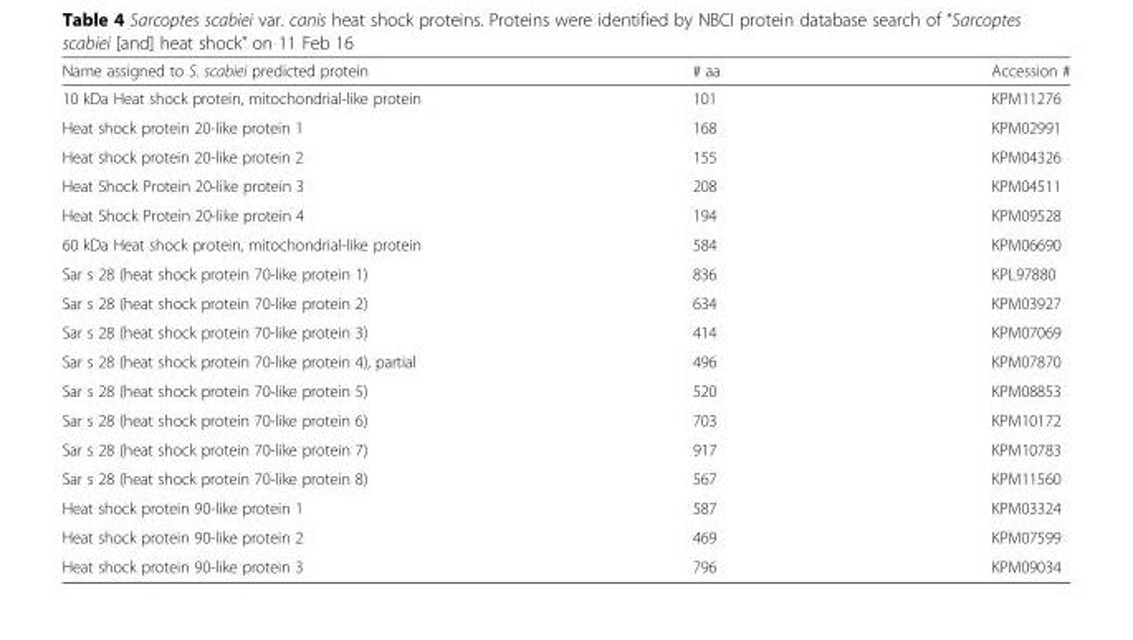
<table><thead><tr><td>Name assigned to S. scabiei predicted protein</td><td># aa</td><td>Accession #</td></tr></thead><tbody><tr><td>10 kDa Heat shock protein, mitochondrial-like protein</td><td>101</td><td>KPM11276</td></tr><tr><td>Heat shock protein 20-like protein 1</td><td>168</td><td>KPM02991</td></tr><tr><td>Heat shock protein 20-like protein 2</td><td>155</td><td>KPM04326</td></tr><tr><td>Heat Shock Protein 20-like protein 3</td><td>208</td><td>KPM04511</td></tr><tr><td>Heat Shock Protein 20-like protein 4</td><td>194</td><td>KPM09528</td></tr><tr><td>60 kDa Heat shock protein, mitochondrial-like protein</td><td>584</td><td>KPM06690</td></tr><tr><td>Sar s 28 (heat shock protein 70-like protein 1)</td><td>836</td><td>KPL97880</td></tr><tr><td>Sar s 28 (heat shock protein 70-like protein 2)</td><td>634</td><td>KPM03927</td></tr><tr><td>Sar s 28 (heat shock protein 70-like protein 3)</td><td>414</td><td>KPM07069</td></tr><tr><td>Sar s 28 (heat shock protein 70-like protein 4), partial</td><td>496</td><td>KPM07870</td></tr><tr><td>Sar s 28 (heat shock protein 70-like protein 5)</td><td>520</td><td>KPM08853</td></tr><tr><td>Sar s 28 (heat shock protein 70-like protein 6)</td><td>703</td><td>KPM10172</td></tr><tr><td>Sar s 28 (heat shock protein 70-like protein 7)</td><td>917</td><td>KPM10783</td></tr><tr><td>Sar s 28 (heat shock protein 70-like protein 8)</td><td>567</td><td>KPM11560</td></tr><tr><td>Heat shock protein 90-like protein 1</td><td>587</td><td>KPM03324</td></tr><tr><td>Heat shock protein 90-like protein 2</td><td>469</td><td>KPM07599</td></tr><tr><td>Heat shock protein 90-like protein 3</td><td>796</td><td>KPM09034</td></tr></tbody></table>